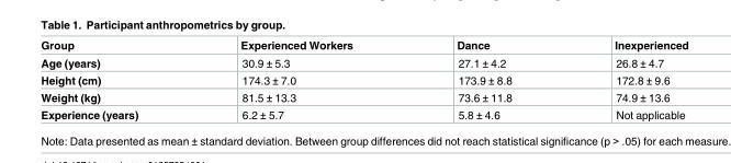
<table><thead><tr><td>Group</td><td>Experienced Workers</td><td>Dance</td><td>Inexperienced</td></tr></thead><tbody><tr><td>Age (years)</td><td>30.9 ± 5.3</td><td>27.1 ± 4.2</td><td>26.8 ± 4.7</td></tr><tr><td>Height (cm)</td><td>174.3 ± 7.0</td><td>173.9 ± 8.8</td><td>172.8 ± 9.6</td></tr><tr><td>Weight (kg)</td><td>81.5 ± 13.3</td><td>73.6 ± 11.8</td><td>74.9 ± 13.6</td></tr><tr><td>Experience (years)</td><td>6.2 ± 5.7</td><td>5.8 ± 4.6</td><td>Not applicable</td></tr></tbody></table>